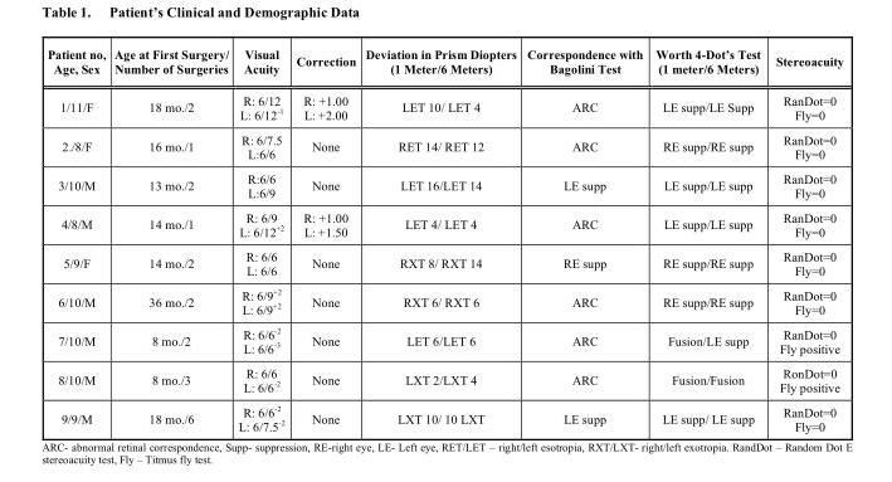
<table><thead><tr><td>Patient no, Age, Sex</td><td>Age at First Surgery/ Number of Surgeries</td><td>Visual Acuity</td><td>Correction</td><td>Deviation in Prism Diopters (1 Meter/6 Meters)</td><td>Correspondence with Bagolini Test</td><td>Worth 4-Dot’s Test (1 meter/6 Meters)</td><td>Stereoacuity</td></tr></thead><tbody><tr><td>1/11/F</td><td>18 mo./2</td><td>R: 6/12 L: 6/12<sup>-1</sup></td><td>R: +1.00 L: +2.00</td><td>LET 10/ LET 4</td><td>ARC</td><td>LE supp/LE Supp</td><td>RanDot=0 Fly=0</td></tr><tr><td>2./8/F</td><td>16 mo./1</td><td>R: 6/7.5 L:6/6</td><td>None</td><td>RET 14/ RET 12</td><td>ARC</td><td>RE supp/RE supp</td><td>RanDot=0 Fly=0</td></tr><tr><td>3/10/M</td><td>13 mo./2</td><td>R:6/6 L:6/9</td><td>None</td><td>LET 16/LET 14</td><td>LE supp</td><td>LE supp/LE supp</td><td>RanDot=0 Fly=0</td></tr><tr><td>4/8/M</td><td>14 mo./1</td><td>R: 6/9 L: 6/12<sup>+2</sup></td><td>R: +1.00 L: +1.50</td><td>LET 4/ LET 4</td><td>ARC</td><td>LE supp/LE supp</td><td>RanDot=0 Fly=0</td></tr><tr><td>5/9/F</td><td>14 mo./2</td><td>R: 6/6 L: 6/6</td><td>None</td><td>RXT 8/ RXT 14</td><td>RE supp</td><td>RE supp/RE supp</td><td>RanDot=0 Fly=0</td></tr><tr><td>6/10/M</td><td>36 mo./2</td><td>R: 6/9<sup>+2</sup> L: 6/9<sup>+2</sup></td><td>None</td><td>RXT 6/ RXT 6</td><td>ARC</td><td>RE supp/RE supp</td><td>RanDot=0 Fly=0</td></tr><tr><td>7/10/M</td><td>8 mo./2</td><td>R: 6/6<sup>-2</sup> L: 6/6<sup>-3</sup></td><td>None</td><td>LET 6/LET 6</td><td>ARC</td><td>Fusion/LE supp</td><td>RanDot=0 Fly positive</td></tr><tr><td>8/10/M</td><td>8 mo./3</td><td>R: 6/6 L: 6/6<sup>-2</sup></td><td>None</td><td>LXT 2/LXT 4</td><td>ARC</td><td>Fusion/Fusion</td><td>RonDot=0 Fly positive</td></tr><tr><td>9/9/M</td><td>18 mo./6</td><td>R: 6/6<sup>-2</sup> L: 6/7.5<sup>-2</sup></td><td>None</td><td>LXT 10/ 10 LXT</td><td>LE supp</td><td>LE supp/ LE supp</td><td>RanDot=0 Fly=0</td></tr></tbody></table>